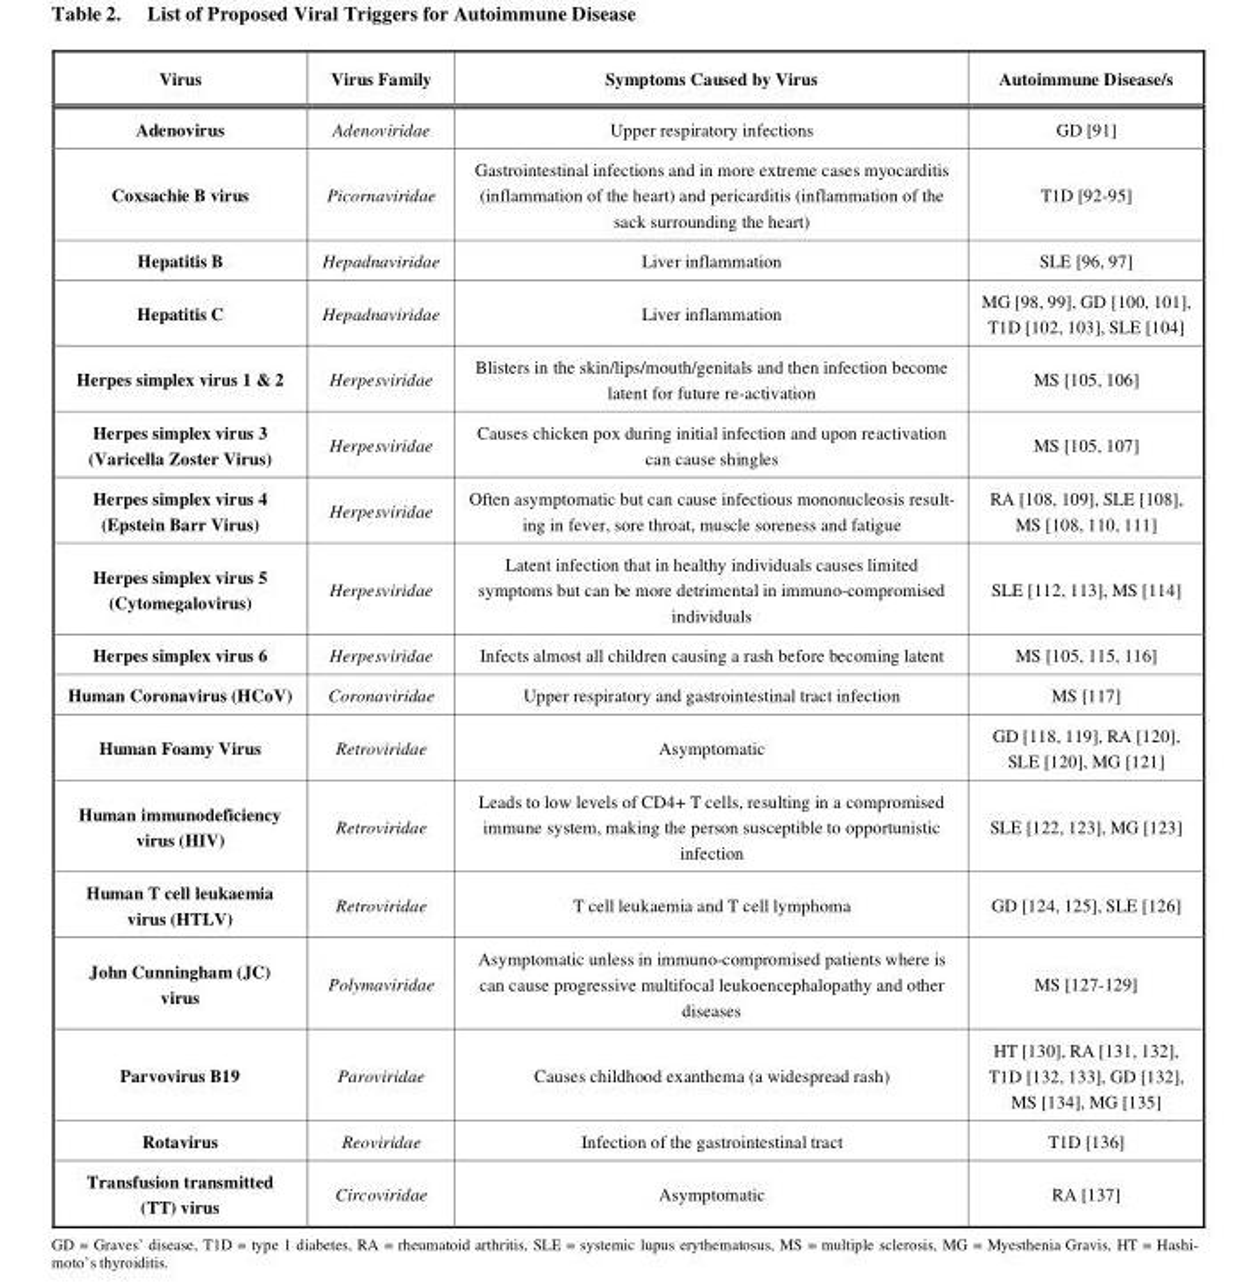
<table><thead><tr><td>Virus</td><td>Virus Family</td><td>Symptoms Caused by Virus</td><td>Autoimmune Disease/s</td></tr></thead><tbody><tr><td>Adenovirus</td><td>Adenoviridae</td><td>Upper respiratory infections</td><td>GD [91]</td></tr><tr><td>Coxsachie B virus</td><td>Picornaviridae</td><td>Gastrointestinal infections and in more extreme cases myocarditis (inflammation of the heart) and pericarditis (inflammation of the sack surrounding the heart)</td><td>T1D [92-95]</td></tr><tr><td>Hepatitis B</td><td>Hepadnaviridae</td><td>Liver inflammation</td><td>SLE [96, 97]</td></tr><tr><td>Hepatitis C</td><td>Hepadnaviridae</td><td>Liver inflammation</td><td>MG [98, 99], GD [100, 101], T1D [102, 103], SLE [104]</td></tr><tr><td>Herpes simplex virus 1 &amp; 2</td><td>Herpesviridae</td><td>Blisters in the skin/lips/mouth/genitals and then infection become latent for future re-activation</td><td>MS [105, 106]</td></tr><tr><td>Herpes simplex virus 3 (Varicella Zoster Virus)</td><td>Herpesviridae</td><td>Causes chicken pox during initial infection and upon reactivation can cause shingles</td><td>MS [105, 107]</td></tr><tr><td>Herpes simplex virus 4 (Epstein Barr Virus)</td><td>Herpesviridae</td><td>Often asymptomatic but can cause infectious mononucleosis result- ing in fever, sore throat, muscle soreness and fatigue</td><td>RA [108, 109], SLE [108], MS [108, 110, 111]</td></tr><tr><td>Herpes simplex virus 5 (Cytomegalovirus)</td><td>Herpesviridae</td><td>Latent infection that in healthy individuals causes limited symptoms but can be more detrimental in immuno-compromised individuals</td><td>SLE [112, 113], MS [114]</td></tr><tr><td>Herpes simplex virus 6</td><td>Herpesviridae</td><td>Infects almost all children causing a rash before becoming latent</td><td>MS [105, 115, 116]</td></tr><tr><td>Human Coronavirus (HCoV)</td><td>Coronaviridae</td><td>Upper respiratory and gastrointestinal tract infection</td><td>MS [117]</td></tr><tr><td>Human Foamy Virus</td><td>Retroviridae</td><td>Asymptomatic</td><td>GD [118, 119], RA [120], SLE [120], MG [121]</td></tr><tr><td>Human immunodeficiency virus (HIV)</td><td>Retroviridae</td><td>Leads to low levels of CD4+ T cells, resulting in a compromised immune system, making the person susceptible to opportunistic infection</td><td>SLE [122, 123], MG [123]</td></tr><tr><td>Human T cell leukaemia virus (HTLV)</td><td>Retroviridae</td><td>T cell leukaemia and T cell lymphoma</td><td>GD [124, 125], SLE [126]</td></tr><tr><td>John Cunningham (JC) virus</td><td>Polymaviridae</td><td>Asymptomatic unless in immuno-compromised patients where is can cause progressive multifocal leukoencephalopathy and other diseases</td><td>MS [127-129]</td></tr><tr><td>Parvovirus B19</td><td>Paroviridae</td><td>Causes childhood exanthema (a widespread rash)</td><td>HT [130], RA [131, 132], T1D [132, 133], GD [132], MS [134], MG [135]</td></tr><tr><td>Rotavirus</td><td>Reoviridae</td><td>Infection of the gastrointestinal tract</td><td>T1D [136]</td></tr><tr><td>Transfusion transmitted (TT) virus</td><td>Circoviridae</td><td>Asymptomatic</td><td>RA [137]</td></tr></tbody></table>